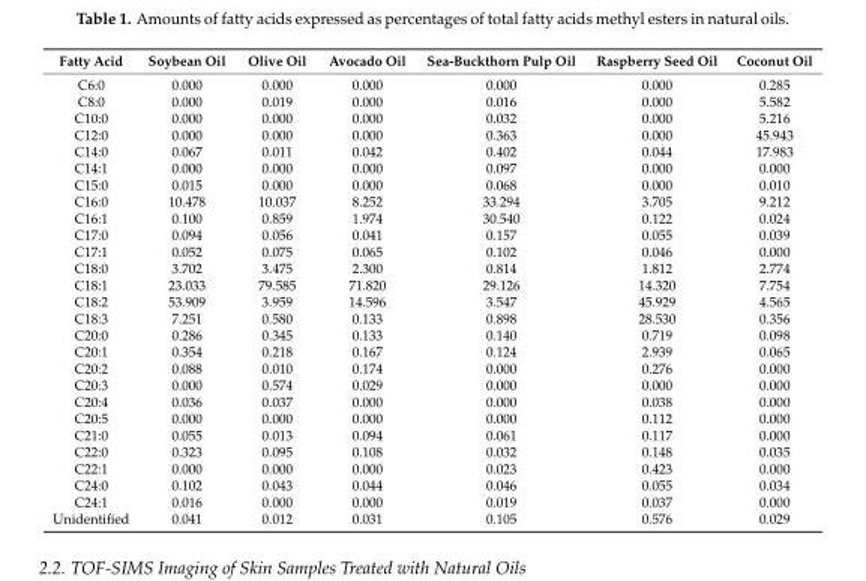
<table><thead><tr><td>Fatty Acid</td><td>Soybean Oil</td><td>Olive Oil</td><td>Avocado Oil</td><td>Sea-Buckthorn Pulp Oil</td><td>Raspberry Seed Oil</td><td>Coconut Oil</td></tr></thead><tbody><tr><td>C6:0</td><td>0.000</td><td>0.000</td><td>0.000</td><td>0.000</td><td>0.000</td><td>0.285</td></tr><tr><td>C8:0</td><td>0.000</td><td>0.019</td><td>0.000</td><td>0.016</td><td>0.000</td><td>5.582</td></tr><tr><td>C10:0</td><td>0.000</td><td>0.000</td><td>0.000</td><td>0.032</td><td>0.000</td><td>5.216</td></tr><tr><td>C12:0</td><td>0.000</td><td>0.000</td><td>0.000</td><td>0.363</td><td>0.000</td><td>45.943</td></tr><tr><td>C14:0</td><td>0.067</td><td>0.011</td><td>0.042</td><td>0.402</td><td>0.044</td><td>17.983</td></tr><tr><td>C14:1</td><td>0.000</td><td>0.000</td><td>0.000</td><td>0.097</td><td>0.000</td><td>0.000</td></tr><tr><td>C15:0</td><td>0.015</td><td>0.000</td><td>0.000</td><td>0.068</td><td>0.000</td><td>0.010</td></tr><tr><td>C16:0</td><td>10.478</td><td>10.037</td><td>8.252</td><td>33.294</td><td>3.705</td><td>9.212</td></tr><tr><td>C16:1</td><td>0.100</td><td>0.859</td><td>1.974</td><td>30.540</td><td>0.122</td><td>0.024</td></tr><tr><td>C17:0</td><td>0.094</td><td>0.056</td><td>0.041</td><td>0.157</td><td>0.055</td><td>0.039</td></tr><tr><td>C17:1</td><td>0.052</td><td>0.075</td><td>0.065</td><td>0.102</td><td>0.046</td><td>0.000</td></tr><tr><td>C18:0</td><td>3.702</td><td>3.475</td><td>2.300</td><td>0.814</td><td>1.812</td><td>2.774</td></tr><tr><td>C18:1</td><td>23.033</td><td>79.585</td><td>71.820</td><td>29.126</td><td>14.320</td><td>7.754</td></tr><tr><td>C18:2</td><td>53.909</td><td>3.959</td><td>14.596</td><td>3.547</td><td>45.929</td><td>4.565</td></tr><tr><td>C18:3</td><td>7.251</td><td>0.580</td><td>0.133</td><td>0.898</td><td>28.530</td><td>0.356</td></tr><tr><td>C20:0</td><td>0.286</td><td>0.345</td><td>0.133</td><td>0.140</td><td>0.719</td><td>0.098</td></tr><tr><td>C20:1</td><td>0.354</td><td>0.218</td><td>0.167</td><td>0.124</td><td>2.939</td><td>0.065</td></tr><tr><td>C20:2</td><td>0.088</td><td>0.010</td><td>0.174</td><td>0.000</td><td>0.276</td><td>0.000</td></tr><tr><td>C20:3</td><td>0.000</td><td>0.574</td><td>0.029</td><td>0.000</td><td>0.000</td><td>0.000</td></tr><tr><td>C20:4</td><td>0.036</td><td>0.037</td><td>0.000</td><td>0.000</td><td>0.038</td><td>0.000</td></tr><tr><td>C20:5</td><td>0.000</td><td>0.000</td><td>0.000</td><td>0.000</td><td>0.112</td><td>0.000</td></tr><tr><td>C21:0</td><td>0.055</td><td>0.013</td><td>0.094</td><td>0.061</td><td>0.117</td><td>0.000</td></tr><tr><td>C22:0</td><td>0.323</td><td>0.095</td><td>0.108</td><td>0.032</td><td>0.148</td><td>0.035</td></tr><tr><td>C22:1</td><td>0.000</td><td>0.000</td><td>0.000</td><td>0.023</td><td>0.423</td><td>0.000</td></tr><tr><td>C24:0</td><td>0.102</td><td>0.043</td><td>0.044</td><td>0.046</td><td>0.055</td><td>0.034</td></tr><tr><td>C24:1</td><td>0.016</td><td>0.000</td><td>0.000</td><td>0.019</td><td>0.037</td><td>0.000</td></tr><tr><td>Unidentified</td><td>0.041</td><td>0.012</td><td>0.031</td><td>0.105</td><td>0.576</td><td>0.029</td></tr></tbody></table>